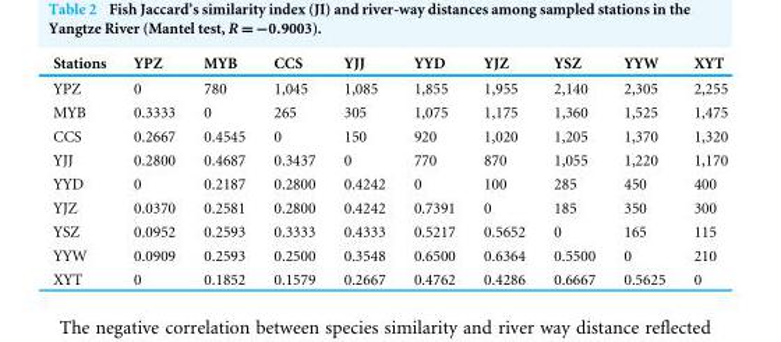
<table><thead><tr><td>Stations</td><td>YPZ</td><td>MYB</td><td>CCS</td><td>YJJ</td><td>YYD</td><td>YJZ</td><td>YSZ</td><td>YYW</td><td>XYT</td></tr></thead><tbody><tr><td>YPZ</td><td>0</td><td>780</td><td>1,045</td><td>1,085</td><td>1,855</td><td>1,955</td><td>2,140</td><td>2,305</td><td>2,255</td></tr><tr><td>MYB</td><td>0.3333</td><td>0</td><td>265</td><td>305</td><td>1,075</td><td>1,175</td><td>1,360</td><td>1,525</td><td>1,475</td></tr><tr><td>CCS</td><td>0.2667</td><td>0.4545</td><td>0</td><td>150</td><td>920</td><td>1,020</td><td>1,205</td><td>1,370</td><td>1,320</td></tr><tr><td>YJJ</td><td>0.2800</td><td>0.4687</td><td>0.3437</td><td>0</td><td>770</td><td>870</td><td>1,055</td><td>1,220</td><td>1,170</td></tr><tr><td>YYD</td><td>0</td><td>0.2187</td><td>0.2800</td><td>0.4242</td><td>0</td><td>100</td><td>285</td><td>450</td><td>400</td></tr><tr><td>YJZ</td><td>0.0370</td><td>0.2581</td><td>0.2800</td><td>0.4242</td><td>0.7391</td><td>0</td><td>185</td><td>350</td><td>300</td></tr><tr><td>YSZ</td><td>0.0952</td><td>0.2593</td><td>0.3333</td><td>0.4333</td><td>0.5217</td><td>0.5652</td><td>0</td><td>165</td><td>115</td></tr><tr><td>YYW</td><td>0.0909</td><td>0.2593</td><td>0.2500</td><td>0.3548</td><td>0.6500</td><td>0.6364</td><td>0.5500</td><td>0</td><td>210</td></tr><tr><td>XYT</td><td>0</td><td>0.1852</td><td>0.1579</td><td>0.2667</td><td>0.4762</td><td>0.4286</td><td>0.6667</td><td>0.5625</td><td>0</td></tr></tbody></table>